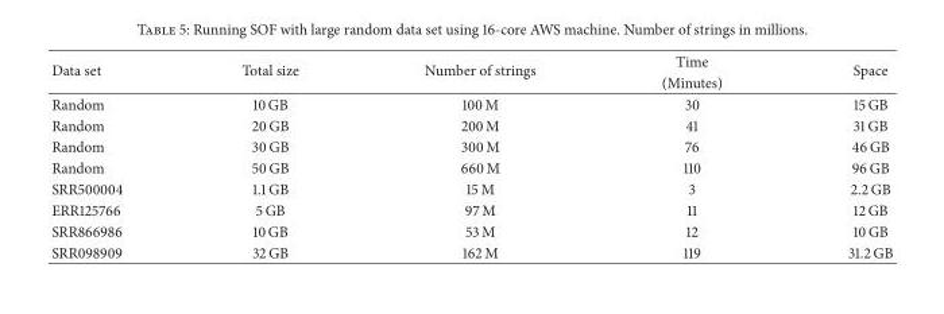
<table><thead><tr><td rowspan="2">Data set</td><td rowspan="2">Total size</td><td rowspan="2">Number of strings</td><td rowspan="2">Time (Minutes)</td><td rowspan="2">Space</td></tr><tr></tr></thead><tbody><tr><td>Random</td><td>10 GB</td><td>100 M</td><td>30</td><td>15 GB</td></tr><tr><td>Random</td><td>20 GB</td><td>200 M</td><td>41</td><td>31 GB</td></tr><tr><td>Random</td><td>30 GB</td><td>300 M</td><td>76</td><td>46 GB</td></tr><tr><td>Random</td><td>50 GB</td><td>660 M</td><td>110</td><td>96 GB</td></tr><tr><td>SRR500004</td><td>1.1 GB</td><td>15 M</td><td>3</td><td>2.2 GB</td></tr><tr><td>ERR125766</td><td>5 GB</td><td>97 M</td><td>11</td><td>12 GB</td></tr><tr><td>SRR866986</td><td>10 GB</td><td>53 M</td><td>12</td><td>10 GB</td></tr><tr><td>SRR098909</td><td>32 GB</td><td>162 M</td><td>119</td><td>31.2 GB</td></tr></tbody></table>